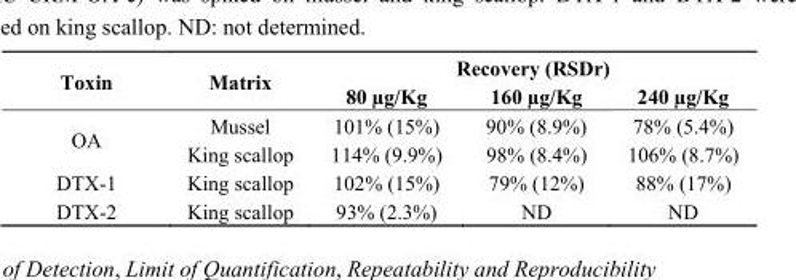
<table><thead><tr><td rowspan="2">Toxin</td><td rowspan="2">Matrix</td><td colspan="3">Recovery (RSDr)</td></tr><tr><td>80 µg/Kg</td><td>160 µg/Kg</td><td>240 µg/Kg</td></tr></thead><tbody><tr><td rowspan="2">OA</td><td>Mussel</td><td>101% (15%)</td><td>90% (8.9%)</td><td>78% (5.4%)</td></tr><tr><td>King scallop</td><td>114% (9.9%)</td><td>98% (8.4%)</td><td>106% (8.7%)</td></tr><tr><td>DTX-1</td><td>King scallop</td><td>102% (15%)</td><td>79% (12%)</td><td>88% (17%)</td></tr><tr><td>DTX-2</td><td>King scallop</td><td>93% (2.3%)</td><td>ND</td><td>ND</td></tr></tbody></table>